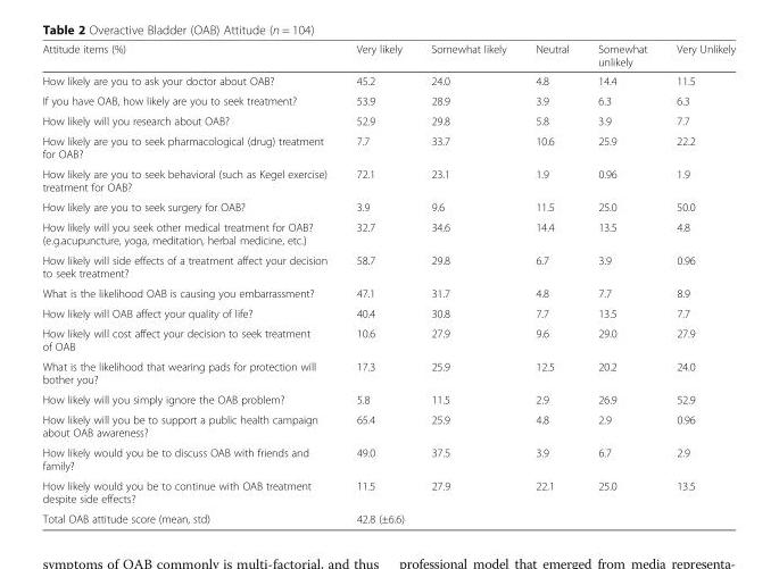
<table><thead><tr><td>Attitude items (%)</td><td>Very likely</td><td>Somewhat likely</td><td>Neutral</td><td>Somewhat unlikely</td><td>Very Unlikely</td></tr></thead><tbody><tr><td>How likely are you to ask your doctor about OAB?</td><td>45.2</td><td>24.0</td><td>4.8</td><td>14.4</td><td>11.5</td></tr><tr><td>If you have OAB, how likely are you to seek treatment?</td><td>53.9</td><td>28.9</td><td>3.9</td><td>6.3</td><td>6.3</td></tr><tr><td>How likely will you research about OAB?</td><td>52.9</td><td>29.8</td><td>5.8</td><td>3.9</td><td>7.7</td></tr><tr><td>How likely are you to seek pharmacological (drug) treatment for OAB?</td><td>7.7</td><td>33.7</td><td>10.6</td><td>25.9</td><td>22.2</td></tr><tr><td>How likely are you to seek behavioral (such as Kegel exercise) treatment for OAB?</td><td>72.1</td><td>23.1</td><td>1.9</td><td>0.96</td><td>1.9</td></tr><tr><td>How likely are you to seek surgery for OAB?</td><td>3.9</td><td>9.6</td><td>11.5</td><td>25.0</td><td>50.0</td></tr><tr><td>How likely will you seek other medical treatment for OAB? (e.g.acupuncture, yoga, meditation, herbal medicine, etc.)</td><td>32.7</td><td>34.6</td><td>14.4</td><td>13.5</td><td>4.8</td></tr><tr><td>How likely will side effects of a treatment affect your decision to seek treatment?</td><td>58.7</td><td>29.8</td><td>6.7</td><td>3.9</td><td>0.96</td></tr><tr><td>What is the likelihood OAB is causing you embarrassment?</td><td>47.1</td><td>31.7</td><td>4.8</td><td>7.7</td><td>8.9</td></tr><tr><td>How likely will OAB affect your quality of life?</td><td>40.4</td><td>30.8</td><td>7.7</td><td>13.5</td><td>7.7</td></tr><tr><td>How likely will cost affect your decision to seek treatment of OAB</td><td>10.6</td><td>27.9</td><td>9.6</td><td>29.0</td><td>27.9</td></tr><tr><td>What is the likelihood that wearing pads for protection will bother you?</td><td>17.3</td><td>25.9</td><td>12.5</td><td>20.2</td><td>24.0</td></tr><tr><td>How likely will you simply ignore the OAB problem?</td><td>5.8</td><td>11.5</td><td>2.9</td><td>26.9</td><td>52.9</td></tr><tr><td>How likely will you be to support a public health campaign about OAB awareness?</td><td>65.4</td><td>25.9</td><td>4.8</td><td>2.9</td><td>0.96</td></tr><tr><td>How likely would you be to discuss OAB with friends and family?</td><td>49.0</td><td>37.5</td><td>3.9</td><td>6.7</td><td>2.9</td></tr><tr><td>How likely would you be to continue with OAB treatment despite side effects?</td><td>11.5</td><td>27.9</td><td>22.1</td><td>25.0</td><td>13.5</td></tr><tr><td>Total OAB attitude score (mean, std)</td><td colspan="5">42.8 (±6.6)</td></tr></tbody></table>